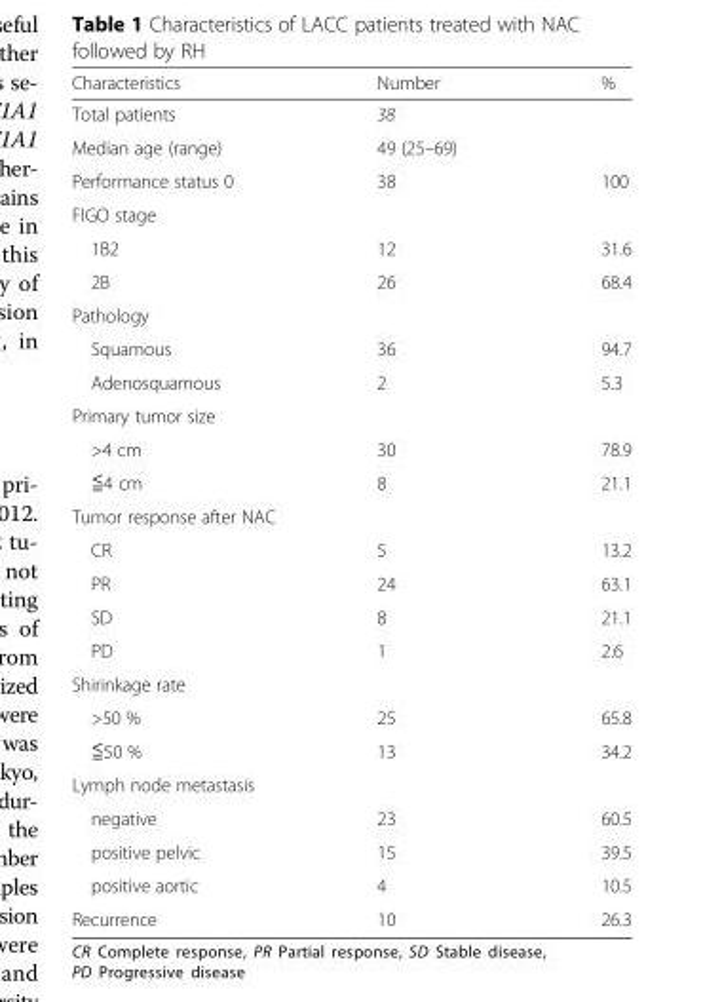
<table><thead><tr><td>Characteristics</td><td>Number</td><td>%</td></tr></thead><tbody><tr><td>Total patients</td><td>38</td><td></td></tr><tr><td>Median age (range)</td><td>49 (25–69)</td><td></td></tr><tr><td>Performance status 0</td><td>38</td><td>100</td></tr><tr><td colspan="3">FIGO stage</td></tr><tr><td>1B2</td><td>12</td><td>31.6</td></tr><tr><td>2B</td><td>26</td><td>68.4</td></tr><tr><td colspan="3">Pathology</td></tr><tr><td>Squamous</td><td>36</td><td>94.7</td></tr><tr><td>Adenosquamous</td><td>2</td><td>5.3</td></tr><tr><td colspan="3">Primary tumor size</td></tr><tr><td>&gt;4 cm</td><td>30</td><td>78.9</td></tr><tr><td>≦4 cm</td><td>8</td><td>21.1</td></tr><tr><td colspan="3">Tumor response after NAC</td></tr><tr><td>CR</td><td>5</td><td>13.2</td></tr><tr><td>PR</td><td>24</td><td>63.1</td></tr><tr><td>SD</td><td>8</td><td>21.1</td></tr><tr><td>PD</td><td>1</td><td>2.6</td></tr><tr><td colspan="3">Shirinkage rate</td></tr><tr><td>&gt;50 %</td><td>25</td><td>65.8</td></tr><tr><td>≦50 %</td><td>13</td><td>34.2</td></tr><tr><td colspan="3">Lymph node metastasis</td></tr><tr><td>negative</td><td>23</td><td>60.5</td></tr><tr><td>positive pelvic</td><td>15</td><td>39.5</td></tr><tr><td>positive aortic</td><td>4</td><td>10.5</td></tr><tr><td>Recurrence</td><td>10</td><td>26.3</td></tr></tbody></table>